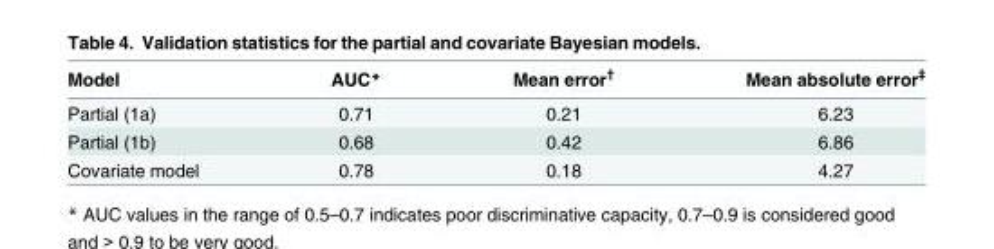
<table><thead><tr><td>Model</td><td>AUC*</td><td>Mean error<sup>†</sup></td><td>Mean absolute error<sup>‡</sup></td></tr></thead><tbody><tr><td>Partial (1a)</td><td>0.71</td><td>0.21</td><td>6.23</td></tr><tr><td>Partial (1b)</td><td>0.68</td><td>0.42</td><td>6.86</td></tr><tr><td>Covariate model</td><td>0.78</td><td>0.18</td><td>4.27</td></tr></tbody></table>